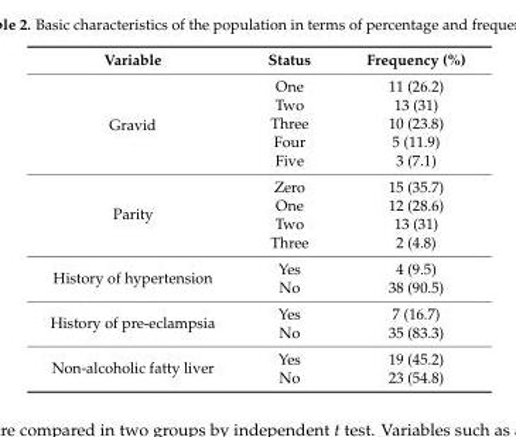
<table><thead><tr><td>Variable</td><td>Status</td><td>Frequency (%)</td></tr></thead><tbody><tr><td rowspan="5">Gravid</td><td>One</td><td>11 (26.2)</td></tr><tr><td>Two</td><td>13 (31)</td></tr><tr><td>Three</td><td>10 (23.8)</td></tr><tr><td>Four</td><td>5 (11.9)</td></tr><tr><td>Five</td><td>3 (7.1)</td></tr><tr><td rowspan="4">Parity</td><td>Zero</td><td>15 (35.7)</td></tr><tr><td>One</td><td>12 (28.6)</td></tr><tr><td>Two</td><td>13 (31)</td></tr><tr><td>Three</td><td>2 (4.8)</td></tr><tr><td rowspan="2">History of hypertension</td><td>Yes</td><td>4 (9.5)</td></tr><tr><td>No</td><td>38 (90.5)</td></tr><tr><td rowspan="2">History of pre-eclampsia</td><td>Yes</td><td>7 (16.7)</td></tr><tr><td>No</td><td>35 (83.3)</td></tr><tr><td rowspan="2">Non-alcoholic fatty liver</td><td>Yes</td><td>19 (45.2)</td></tr><tr><td>No</td><td>23 (54.8)</td></tr></tbody></table>